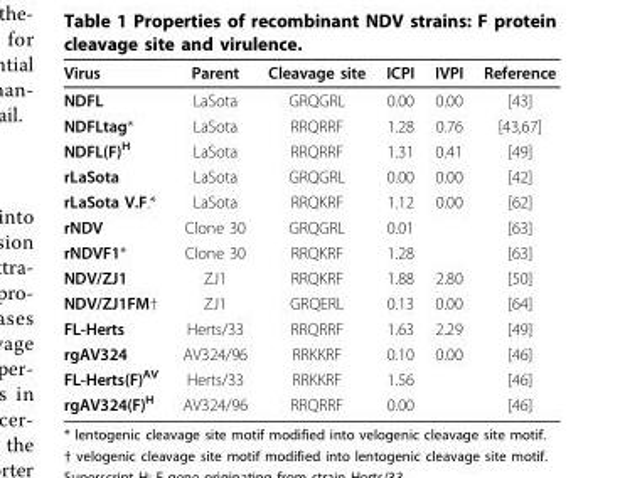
<table><thead><tr><td>Virus</td><td>Parent</td><td>Cleavage site</td><td>ICPI</td><td>IVPI</td><td>Reference</td></tr></thead><tbody><tr><td>NDFL</td><td>LaSota</td><td>GRQGRL</td><td>0.00</td><td>0.00</td><td>[43]</td></tr><tr><td>NDFLtag*</td><td>LaSota</td><td>RRQRRF</td><td>1.28</td><td>0.76</td><td>[43,67]</td></tr><tr><td>NDFL(F)<sup>H</sup></td><td>LaSota</td><td>RRQRRF</td><td>1.31</td><td>0.41</td><td>[49]</td></tr><tr><td>rLaSota</td><td>LaSota</td><td>GRQGRL</td><td>0.00</td><td>0.00</td><td>[42]</td></tr><tr><td>rLaSota V.F.*</td><td>LaSota</td><td>RRQKRF</td><td>1.12</td><td>0.00</td><td>[62]</td></tr><tr><td>rNDV</td><td>Clone 30</td><td>GRQGRL</td><td>0.01</td><td></td><td>[63]</td></tr><tr><td>rNDVF1*</td><td>Clone 30</td><td>RRQKRF</td><td>1.28</td><td></td><td>[63]</td></tr><tr><td>NDV/ZJ1</td><td>ZJ1</td><td>RRQKRF</td><td>1.88</td><td>2.80</td><td>[50]</td></tr><tr><td>NDV/ZJ1FM†</td><td>ZJ1</td><td>GRQERL</td><td>0.13</td><td>0.00</td><td>[64]</td></tr><tr><td>FL-Herts</td><td>Herts/33</td><td>RRQRRF</td><td>1.63</td><td>2.29</td><td>[49]</td></tr><tr><td>rgAV324</td><td>AV324/96</td><td>RRKKRF</td><td>0.10</td><td>0.00</td><td>[46]</td></tr><tr><td>FL-Herts(F)<sup>AV</sup></td><td>Herts/33</td><td>RRKKRF</td><td>1.56</td><td></td><td>[46]</td></tr><tr><td>rgAV324(F)<sup>H</sup></td><td>AV324/96</td><td>RRQRRF</td><td>0.00</td><td></td><td>[46]</td></tr></tbody></table>